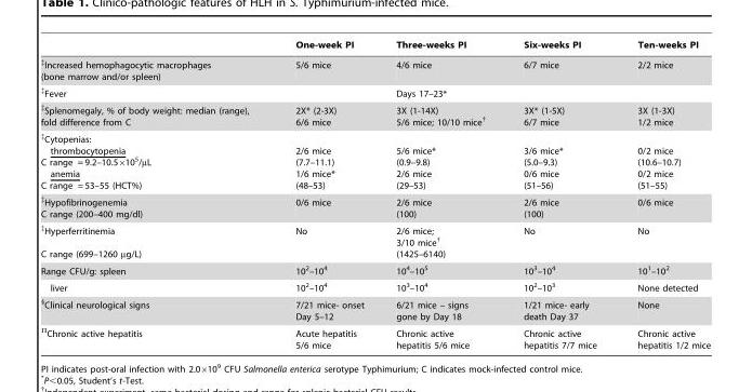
<table><thead><tr><td></td><td>One-week PI</td><td>Three-weeks PI</td><td>Six-weeks PI</td><td>Ten-weeks PI</td></tr></thead><tbody><tr><td>‡Increased hemophagocytic macrophages (bone marrow and/or spleen)</td><td>5/6 mice</td><td>4/6 mice</td><td>6/7 mice</td><td>2/2 mice</td></tr><tr><td>‡Fever</td><td></td><td>Days 17–23*</td><td></td><td></td></tr><tr><td>‡Splenomegaly, % of body weight: median (range), fold difference from C</td><td>2X* (2-3X) 6/6 mice</td><td>3X (1-14X) 5/6 mice; 10/10 mice†</td><td>3X* (1-5X) 6/7 mice</td><td>3X (1-3X) 1/2 mice</td></tr><tr><td>‡Cytopenias: thrombocytopenia C range = 9.2–10.5×10<sup>5</sup>/µL anemia C range = 53–55 (HCT%)</td><td>2/6 mice (7.7–11.1) 1/6 mice* (48–53)</td><td>5/6 mice* (0.9–9.8) 2/6 mice (29–53)</td><td>3/6 mice* (5.0–9.3) 0/6 mice (51–56)</td><td>0/2 mice (10.6–10.7) 0/2 mice (51–55)</td></tr><tr><td>‡Hypofibrinogenemia C range (200–400 mg/dl)</td><td>0/6 mice</td><td>2/6 mice (100)</td><td>2/6 mice (100)</td><td>0/6 mice</td></tr><tr><td>‡Hyperferritinemia C range (699–1260 µg/L)</td><td>No</td><td>2/6 mice; 3/10 mice† (1425–6140)</td><td>No</td><td>No</td></tr><tr><td>Range CFU/g: spleen</td><td>10<sup>2</sup>–10<sup>4</sup></td><td>10<sup>4</sup>–10<sup>5</sup></td><td>10<sup>3</sup>–10<sup>4</sup></td><td>10<sup>1</sup>–10<sup>2</sup></td></tr><tr><td>liver</td><td>10<sup>2</sup>–10<sup>4</sup></td><td>10<sup>3</sup>–10<sup>4</sup></td><td>10<sup>2</sup>–10<sup>3</sup></td><td>None detected</td></tr><tr><td>§Clinical neurological signs</td><td>7/21 mice- onset Day 5–12</td><td>6/21 mice – signs gone by Day 18</td><td>1/21 mice- early death Day 37</td><td>None</td></tr><tr><td><sup>Π</sup>Chronic active hepatitis</td><td>Acute hepatitis 5/6 mice</td><td>Chronic active hepatitis 5/6 mice</td><td>Chronic active hepatitis 7/7 mice</td><td>Chronic active hepatitis 1/2 mice</td></tr></tbody></table>